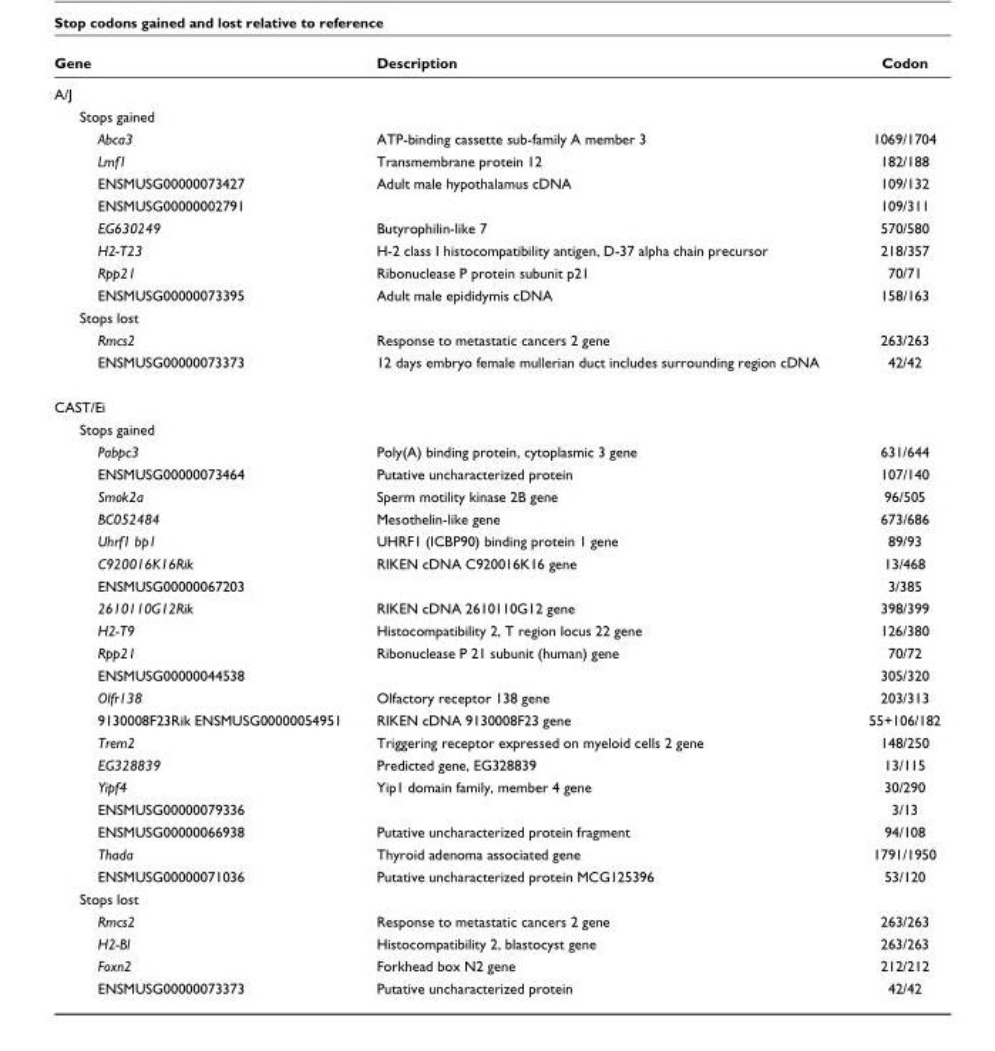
<table><thead><tr><td>Gene</td><td>Description</td><td>Codon</td></tr></thead><tbody><tr><td colspan="3">A/J</td></tr><tr><td colspan="3">Stops gained</td></tr><tr><td>Abca3</td><td>ATP-binding cassette sub-family A member 3</td><td>1069/1704</td></tr><tr><td>Lmf1</td><td>Transmembrane protein 12</td><td>182/188</td></tr><tr><td>ENSMUSG00000073427</td><td>Adult male hypothalamus cDNA</td><td>109/132</td></tr><tr><td>ENSMUSG00000002791</td><td></td><td>109/311</td></tr><tr><td>EG630249</td><td>Butyrophilin-like 7</td><td>570/580</td></tr><tr><td>H2-T23</td><td>H-2 class I histocompatibility antigen, D-37 alpha chain precursor</td><td>218/357</td></tr><tr><td>Rpp21</td><td>Ribonuclease P protein subunit p21</td><td>70/71</td></tr><tr><td>ENSMUSG00000073395</td><td>Adult male epididymis cDNA</td><td>158/163</td></tr><tr><td colspan="3">Stops lost</td></tr><tr><td>Rmcs2</td><td>Response to metastatic cancers 2 gene</td><td>263/263</td></tr><tr><td>ENSMUSG00000073373</td><td>12 days embryo female mullerian duct includes surrounding region cDNA</td><td>42/42</td></tr><tr><td colspan="3">CAST/Ei</td></tr><tr><td colspan="3">Stops gained</td></tr><tr><td>Pabpc3</td><td>Poly(A) binding protein, cytoplasmic 3 gene</td><td>631/644</td></tr><tr><td>ENSMUSG00000073464</td><td>Putative uncharacterized protein</td><td>107/140</td></tr><tr><td>Smok2a</td><td>Sperm motility kinase 2B gene</td><td>96/505</td></tr><tr><td>BC052484</td><td>Mesothelin-like gene</td><td>673/686</td></tr><tr><td>Uhrf1 bp1</td><td>UHRF1 (ICBP90) binding protein 1 gene</td><td>89/93</td></tr><tr><td>C920016K16Rik</td><td>RIKEN cDNA C920016K16 gene</td><td>13/468</td></tr><tr><td>ENSMUSG00000067203</td><td></td><td>3/385</td></tr><tr><td>2610110G12Rik</td><td>RIKEN cDNA 2610110G12 gene</td><td>398/399</td></tr><tr><td>H2-T9</td><td>Histocompatibility 2, T region locus 22 gene</td><td>126/380</td></tr><tr><td>Rpp21</td><td>Ribonuclease P 21 subunit (human) gene</td><td>70/72</td></tr><tr><td>ENSMUSG00000044538</td><td></td><td>305/320</td></tr><tr><td>Olfr138</td><td>Olfactory receptor 138 gene</td><td>203/313</td></tr><tr><td>9130008F23Rik ENSMUSG00000054951</td><td>RIKEN cDNA 9130008F23 gene</td><td>55+106/182</td></tr><tr><td>Trem2</td><td>Triggering receptor expressed on myeloid cells 2 gene</td><td>148/250</td></tr><tr><td>EG328839</td><td>Predicted gene, EG328839</td><td>13/115</td></tr><tr><td>Yipf4</td><td>Yip1 domain family, member 4 gene</td><td>30/290</td></tr><tr><td>ENSMUSG00000079336</td><td></td><td>3/13</td></tr><tr><td>ENSMUSG00000066938</td><td>Putative uncharacterized protein fragment</td><td>94/108</td></tr><tr><td>Thada</td><td>Thyroid adenoma associated gene</td><td>1791/1950</td></tr><tr><td>ENSMUSG00000071036</td><td>Putative uncharacterized protein MCG125396</td><td>53/120</td></tr><tr><td colspan="3">Stops lost</td></tr><tr><td>Rmcs2</td><td>Response to metastatic cancers 2 gene</td><td>263/263</td></tr><tr><td>H2-Bl</td><td>Histocompatibility 2, blastocyst gene</td><td>263/263</td></tr><tr><td>Foxn2</td><td>Forkhead box N2 gene</td><td>212/212</td></tr><tr><td>ENSMUSG00000073373</td><td>Putative uncharacterized protein</td><td>42/42</td></tr></tbody></table>